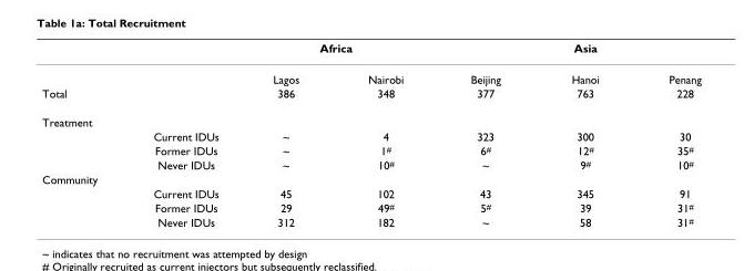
<table><thead><tr><td rowspan="2"></td><td rowspan="2"></td><td colspan="2">Africa</td><td colspan="3">Asia</td></tr><tr><td>Lagos</td><td>Nairobi</td><td>Beijing</td><td>Hanoi</td><td>Penang</td></tr></thead><tbody><tr><td>Total</td><td></td><td>386</td><td>348</td><td>377</td><td>763</td><td>228</td></tr><tr><td colspan="7">Treatment</td></tr><tr><td></td><td>Current IDUs</td><td>~</td><td>4</td><td>323</td><td>300</td><td>30</td></tr><tr><td></td><td>Former IDUs</td><td>~</td><td>1#</td><td>6#</td><td>12#</td><td>35#</td></tr><tr><td></td><td>Never IDUs</td><td>~</td><td>10#</td><td>~</td><td>9#</td><td>10#</td></tr><tr><td colspan="7">Community</td></tr><tr><td></td><td>Current IDUs</td><td>45</td><td>102</td><td>43</td><td>345</td><td>91</td></tr><tr><td></td><td>Former IDUs</td><td>29</td><td>49#</td><td>5#</td><td>39</td><td>31#</td></tr><tr><td></td><td>Never IDUs</td><td>312</td><td>182</td><td>~</td><td>58</td><td>31#</td></tr></tbody></table>